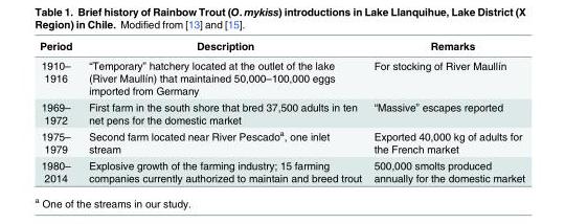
<table><thead><tr><td>Period</td><td>Description</td><td>Remarks</td></tr></thead><tbody><tr><td>1910– 1916</td><td>“Temporary” hatchery located at the outlet of the lake (River Maullín) that maintained 50,000–100,000 eggs imported from Germany</td><td>For stocking of River Maullín</td></tr><tr><td>1969– 1972</td><td>First farm in the south shore that bred 37,500 adults in ten net pens for the domestic market</td><td>“Massive” escapes reported</td></tr><tr><td>1975– 1979</td><td>Second farm located near River Pescado<sup>a</sup>, one inlet stream</td><td>Exported 40,000 kg of adults for the French market</td></tr><tr><td>1980– 2014</td><td>Explosive growth of the farming industry; 15 farming companies currently authorized to maintain and breed trout</td><td>500,000 smolts produced annually for the domestic market</td></tr></tbody></table>